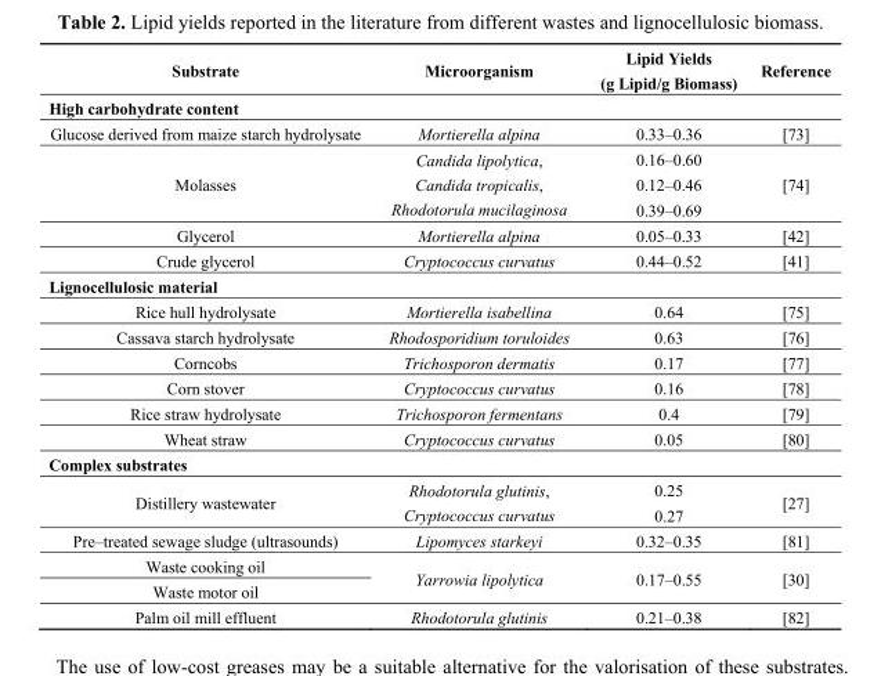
<table><thead><tr><td>Substrate</td><td>Microorganism</td><td>Lipid Yields (g Lipid/g Biomass)</td><td>Reference</td></tr></thead><tbody><tr><td colspan="4">High carbohydrate content</td></tr><tr><td>Glucose derived from maize starch hydrolysate</td><td>Mortierella alpina</td><td>0.33–0.36</td><td>[73]</td></tr><tr><td rowspan="3">Molasses</td><td rowspan="3">Candida lipolytica, Candida tropicalis, Rhodotorula mucilaginosa</td><td>0.16–0.60</td><td rowspan="3">[74]</td></tr><tr><td>0.12–0.46</td></tr><tr><td>0.39–0.69</td></tr><tr><td>Glycerol</td><td>Mortierella alpina</td><td>0.05–0.33</td><td>[42]</td></tr><tr><td>Crude glycerol</td><td>Cryptococcus curvatus</td><td>0.44–0.52</td><td>[41]</td></tr><tr><td colspan="4">Lignocellulosic material</td></tr><tr><td>Rice hull hydrolysate</td><td>Mortierella isabellina</td><td>0.64</td><td>[75]</td></tr><tr><td>Cassava starch hydrolysate</td><td>Rhodosporidium toruloides</td><td>0.63</td><td>[76]</td></tr><tr><td>Corncobs</td><td>Trichosporon dermatis</td><td>0.17</td><td>[77]</td></tr><tr><td>Corn stover</td><td>Cryptococcus curvatus</td><td>0.16</td><td>[78]</td></tr><tr><td>Rice straw hydrolysate</td><td>Trichosporon fermentans</td><td>0.4</td><td>[79]</td></tr><tr><td>Wheat straw</td><td>Cryptococcus curvatus</td><td>0.05</td><td>[80]</td></tr><tr><td colspan="4">Complex substrates</td></tr><tr><td rowspan="2">Distillery wastewater</td><td rowspan="2">Rhodotorula glutinis, Cryptococcus curvatus</td><td>0.25</td><td rowspan="2">[27]</td></tr><tr><td>0.27</td></tr><tr><td>Pre–treated sewage sludge (ultrasounds)</td><td>Lipomyces starkeyi</td><td>0.32–0.35</td><td>[81]</td></tr><tr><td>Waste cooking oil</td><td rowspan="2">Yarrowia lipolytica</td><td rowspan="2">0.17–0.55</td><td rowspan="2">[30]</td></tr><tr><td>Waste motor oil</td></tr><tr><td>Palm oil mill effluent</td><td>Rhodotorula glutinis</td><td>0.21–0.38</td><td>[82]</td></tr></tbody></table>